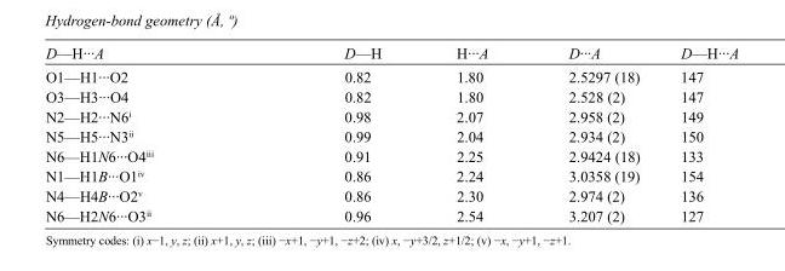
<table><tbody><tr><td>D—H···A</td><td>D—H</td><td>H···A</td><td>D···A</td><td>D—H···A</td></tr><tr><td>O1—H1···O2</td><td>0.82</td><td>1.80</td><td>2.5297 (18)</td><td>147</td></tr><tr><td>O3—H3···O4</td><td>0.82</td><td>1.80</td><td>2.528 (2)</td><td>147</td></tr><tr><td>N2—H2···N6<sup>i</sup></td><td>0.98</td><td>2.07</td><td>2.958 (2)</td><td>149</td></tr><tr><td>N5—H5···N3<sup>ii</sup></td><td>0.99</td><td>2.04</td><td>2.934 (2)</td><td>150</td></tr><tr><td>N6—H1N6···O4<sup>iii</sup></td><td>0.91</td><td>2.25</td><td>2.9424 (18)</td><td>133</td></tr><tr><td>N1—H1B···O1<sup>iv</sup></td><td>0.86</td><td>2.24</td><td>3.0358 (19)</td><td>154</td></tr><tr><td>N4—H4B···O2<sup>v</sup></td><td>0.86</td><td>2.30</td><td>2.974 (2)</td><td>136</td></tr><tr><td>N6—H2N6···O3<sup>ii</sup></td><td>0.96</td><td>2.54</td><td>3.207 (2)</td><td>127</td></tr></tbody></table>